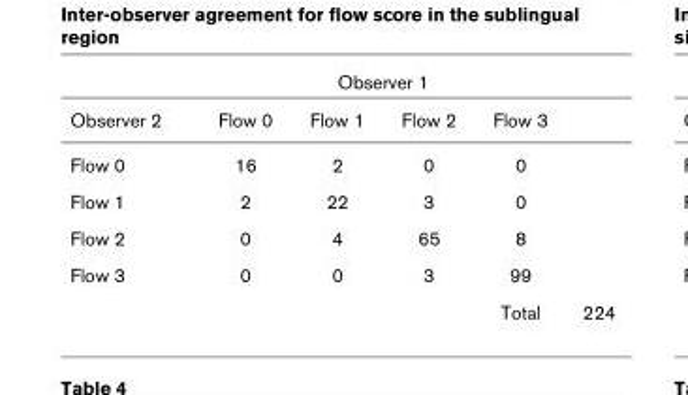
<table><thead><tr><td rowspan="2">Observer 2</td><td colspan="4">Observer 1</td><td rowspan="2"></td></tr><tr><td>Flow 0</td><td>Flow 1</td><td>Flow 2</td><td>Flow 3</td></tr></thead><tbody><tr><td>Flow 0</td><td>16</td><td>2</td><td>0</td><td>0</td><td></td></tr><tr><td>Flow 1</td><td>2</td><td>22</td><td>3</td><td>0</td><td></td></tr><tr><td>Flow 2</td><td>0</td><td>4</td><td>65</td><td>8</td><td></td></tr><tr><td rowspan="2">Flow 3</td><td>0</td><td>0</td><td>3</td><td>99</td><td></td></tr><tr><td></td><td></td><td></td><td>Total</td><td>224</td></tr></tbody></table>